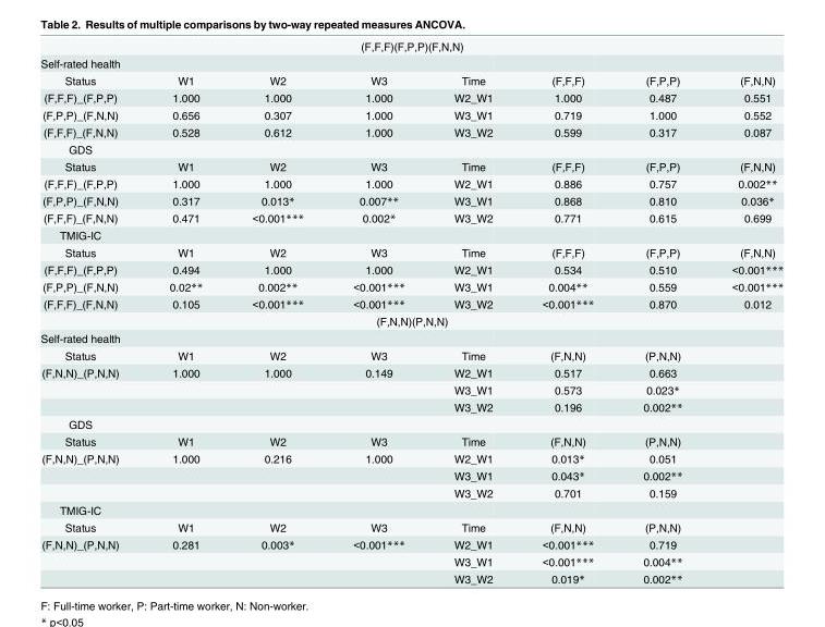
<table><tbody><tr><td colspan="8">(F,F,F)(F,P,P)(F,N,N)</td></tr><tr><td colspan="8">Self-rated health</td></tr><tr><td>Status</td><td>W1</td><td>W2</td><td>W3</td><td>Time</td><td>(F,F,F)</td><td>(F,P,P)</td><td>(F,N,N)</td></tr><tr><td>(F,F,F)_(F,P,P)</td><td>1.000</td><td>1.000</td><td>1.000</td><td>W2_W1</td><td>1.000</td><td>0.487</td><td>0.551</td></tr><tr><td>(F,P,P)_(F,N,N)</td><td>0.656</td><td>0.307</td><td>1.000</td><td>W3_W1</td><td>0.719</td><td>1.000</td><td>0.552</td></tr><tr><td>(F,F,F)_(F,N,N)</td><td>0.528</td><td>0.612</td><td>1.000</td><td>W3_W2</td><td>0.599</td><td>0.317</td><td>0.087</td></tr><tr><td colspan="8">GDS</td></tr><tr><td>Status</td><td>W1</td><td>W2</td><td>W3</td><td>Time</td><td>(F,F,F)</td><td>(F,P,P)</td><td>(F,N,N)</td></tr><tr><td>(F,F,F)_(F,P,P)</td><td>1.000</td><td>1.000</td><td>1.000</td><td>W2_W1</td><td>0.886</td><td>0.757</td><td>0.002**</td></tr><tr><td>(F,P,P)_(F,N,N)</td><td>0.317</td><td>0.013*</td><td>0.007**</td><td>W3_W1</td><td>0.868</td><td>0.810</td><td>0.036*</td></tr><tr><td>(F,F,F)_(F,N,N)</td><td>0.471</td><td>&lt;0.001***</td><td>0.002*</td><td>W3_W2</td><td>0.771</td><td>0.615</td><td>0.699</td></tr><tr><td colspan="8">TMIG-IC</td></tr><tr><td>Status</td><td>W1</td><td>W2</td><td>W3</td><td>Time</td><td>(F,F,F)</td><td>(F,P,P)</td><td>(F,N,N)</td></tr><tr><td>(F,F,F)_(F,P,P)</td><td>0.494</td><td>1.000</td><td>1.000</td><td>W2_W1</td><td>0.534</td><td>0.510</td><td>&lt;0.001***</td></tr><tr><td>(F,P,P)_(F,N,N)</td><td>0.02**</td><td>0.002**</td><td>&lt;0.001***</td><td>W3_W1</td><td>0.004**</td><td>0.559</td><td>&lt;0.001***</td></tr><tr><td>(F,F,F)_(F,N,N)</td><td>0.105</td><td>&lt;0.001***</td><td>&lt;0.001***</td><td>W3_W2</td><td>&lt;0.001***</td><td>0.870</td><td>0.012</td></tr><tr><td colspan="8">(F,N,N)(P,N,N)</td></tr><tr><td colspan="8">Self-rated health</td></tr><tr><td>Status</td><td>W1</td><td>W2</td><td>W3</td><td>Time</td><td>(F,N,N)</td><td>(P,N,N)</td><td></td></tr><tr><td rowspan="3">(F,N,N)_(P,N,N)</td><td>1.000</td><td>1.000</td><td>0.149</td><td>W2_W1</td><td>0.517</td><td>0.663</td><td></td></tr><tr><td></td><td></td><td></td><td>W3_W1</td><td>0.573</td><td>0.023*</td><td></td></tr><tr><td></td><td></td><td></td><td>W3_W2</td><td>0.196</td><td>0.002**</td><td></td></tr><tr><td colspan="8">GDS</td></tr><tr><td>Status</td><td>W1</td><td>W2</td><td>W3</td><td>Time</td><td>(F,N,N)</td><td>(P,N,N)</td><td></td></tr><tr><td rowspan="3">(F,N,N)_(P,N,N)</td><td>1.000</td><td>0.216</td><td>1.000</td><td>W2_W1</td><td>0.013*</td><td>0.051</td><td></td></tr><tr><td></td><td></td><td></td><td>W3_W1</td><td>0.043*</td><td>0.002**</td><td></td></tr><tr><td></td><td></td><td></td><td>W3_W2</td><td>0.701</td><td>0.159</td><td></td></tr><tr><td colspan="8">TMIG-IC</td></tr><tr><td>Status</td><td>W1</td><td>W2</td><td>W3</td><td>Time</td><td>(F,N,N)</td><td>(P,N,N)</td><td></td></tr><tr><td rowspan="3">(F,N,N)_(P,N,N)</td><td>0.281</td><td>0.003*</td><td>&lt;0.001***</td><td>W2_W1</td><td>&lt;0.001***</td><td>0.719</td><td></td></tr><tr><td></td><td></td><td></td><td>W3_W1</td><td>&lt;0.001***</td><td>0.004**</td><td></td></tr><tr><td></td><td></td><td></td><td>W3_W2</td><td>0.019*</td><td>0.002**</td><td></td></tr></tbody></table>